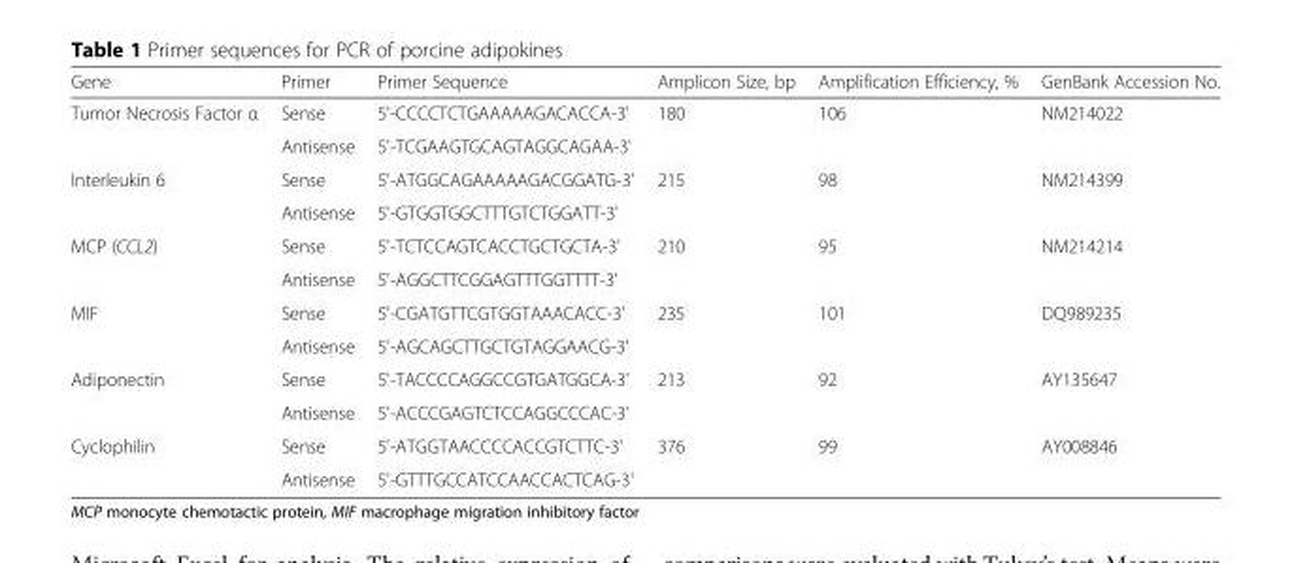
<table><thead><tr><td>Gene</td><td>Primer</td><td>Primer Sequence</td><td>Amplicon Size, bp</td><td>Amplification Efficiency, %</td><td>GenBank Accession No.</td></tr></thead><tbody><tr><td rowspan="2">Tumor Necrosis Factor α</td><td>Sense</td><td>5&#x27;-CCCCTCTGAAAAAGACACCA-3&#x27;</td><td>180</td><td>106</td><td>NM214022</td></tr><tr><td>Antisense</td><td>5&#x27;-TCGAAGTGCAGTAGGCAGAA-3&#x27;</td><td></td><td></td><td></td></tr><tr><td rowspan="2">Interleukin 6</td><td>Sense</td><td>5&#x27;-ATGGCAGAAAAAGACGGATG-3&#x27;</td><td>215</td><td>98</td><td>NM214399</td></tr><tr><td>Antisense</td><td>5&#x27;-GTGGTGGCTTTGTCTGGATT-3&#x27;</td><td></td><td></td><td></td></tr><tr><td rowspan="2">MCP (CCL2)</td><td>Sense</td><td>5&#x27;-TCTCCAGTCACCTGCTGCTA-3&#x27;</td><td>210</td><td>95</td><td>NM214214</td></tr><tr><td>Antisense</td><td>5&#x27;-AGGCTTCGGAGTTTGGTTTT-3&#x27;</td><td></td><td></td><td></td></tr><tr><td rowspan="2">MIF</td><td>Sense</td><td>5&#x27;-CGATGTTCGTGGTAAACACC-3&#x27;</td><td>235</td><td>101</td><td>DQ989235</td></tr><tr><td>Antisense</td><td>5&#x27;-AGCAGCTTGCTGTAGGAACG-3&#x27;</td><td></td><td></td><td></td></tr><tr><td rowspan="2">Adiponectin</td><td>Sense</td><td>5&#x27;-TACCCCAGGCCGTGATGGCA-3&#x27;</td><td>213</td><td>92</td><td>AY135647</td></tr><tr><td>Antisense</td><td>5&#x27;-ACCCGAGTCTCCAGGCCCAC-3&#x27;</td><td></td><td></td><td></td></tr><tr><td rowspan="2">Cyclophilin</td><td>Sense</td><td>5&#x27;-ATGGTAACCCCACCGTCTTC-3&#x27;</td><td>376</td><td>99</td><td>AY008846</td></tr><tr><td>Antisense</td><td>5&#x27;-GTTTGCCATCCAACCACTCAG-3&#x27;</td><td></td><td></td><td></td></tr></tbody></table>